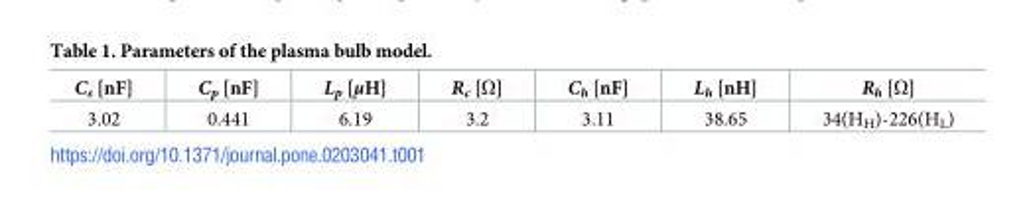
<table><thead><tr><td>C<sub>s</sub> [nF]</td><td>C<sub>p</sub> [nF]</td><td>L<sub>p</sub> [μH]</td><td>R<sub>c</sub> [Ω]</td><td>C<sub>h</sub> [nF]</td><td>L<sub>h</sub> [nH]</td><td>R<sub>h</sub> [Ω]</td></tr></thead><tbody><tr><td>3.02</td><td>0.441</td><td>6.19</td><td>3.2</td><td>3.11</td><td>38.65</td><td>34(H<sub>H</sub>)-226(H<sub>L</sub>)</td></tr></tbody></table>